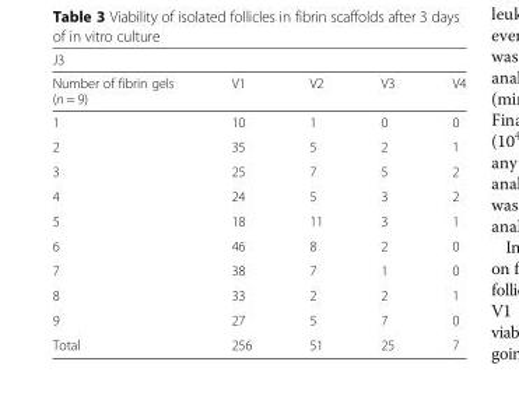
<table><thead><tr><td colspan="5">J3</td></tr><tr><td>Number of fibrin gels (n = 9)</td><td>V1</td><td>V2</td><td>V3</td><td>V4</td></tr></thead><tbody><tr><td>1</td><td>10</td><td>1</td><td>0</td><td>0</td></tr><tr><td>2</td><td>35</td><td>5</td><td>2</td><td>1</td></tr><tr><td>3</td><td>25</td><td>7</td><td>5</td><td>2</td></tr><tr><td>4</td><td>24</td><td>5</td><td>3</td><td>2</td></tr><tr><td>5</td><td>18</td><td>11</td><td>3</td><td>1</td></tr><tr><td>6</td><td>46</td><td>8</td><td>2</td><td>0</td></tr><tr><td>7</td><td>38</td><td>7</td><td>1</td><td>0</td></tr><tr><td>8</td><td>33</td><td>2</td><td>2</td><td>1</td></tr><tr><td>9</td><td>27</td><td>5</td><td>7</td><td>0</td></tr><tr><td>Total</td><td>256</td><td>51</td><td>25</td><td>7</td></tr></tbody></table>